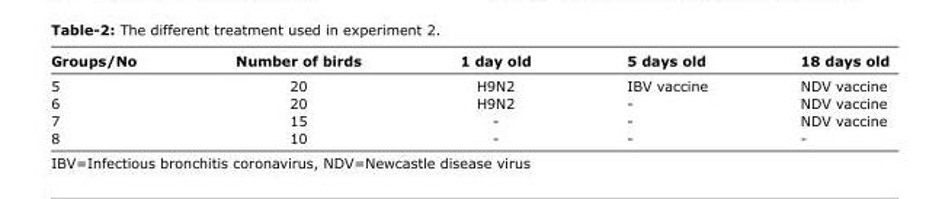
<table><thead><tr><td>Groups/No</td><td>Number of birds</td><td>1 day old</td><td>5 days old</td><td>18 days old</td></tr></thead><tbody><tr><td>5</td><td>20</td><td>H9N2</td><td>IBV vaccine</td><td>NDV vaccine</td></tr><tr><td>6</td><td>20</td><td>H9N2</td><td>-</td><td>NDV vaccine</td></tr><tr><td>7</td><td>15</td><td>-</td><td>-</td><td>NDV vaccine</td></tr><tr><td>8</td><td>10</td><td>-</td><td>-</td><td>-</td></tr></tbody></table>